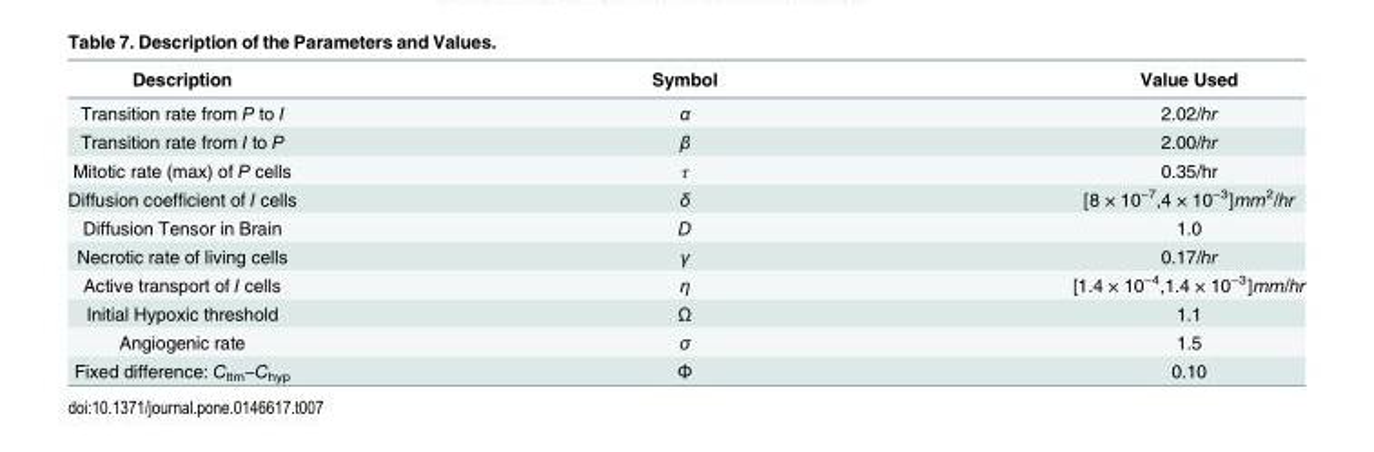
<table><thead><tr><td>Description</td><td>Symbol</td><td>Value Used</td></tr></thead><tbody><tr><td>Transition rate from P to I</td><td>α</td><td>2.02/hr</td></tr><tr><td>Transition rate from I to P</td><td>β</td><td>2.00/hr</td></tr><tr><td>Mitotic rate (max) of P cells</td><td>τ</td><td>0.35/hr</td></tr><tr><td>Diffusion coefficient of I cells</td><td>δ</td><td>[8 × 10<sup>−7</sup>,4 × 10<sup>−3</sup>]mm<sup>2</sup>/hr</td></tr><tr><td>Diffusion Tensor in Brain</td><td>D</td><td>1.0</td></tr><tr><td>Necrotic rate of living cells</td><td>γ</td><td>0.17/hr</td></tr><tr><td>Active transport of I cells</td><td>η</td><td>[1.4 × 10<sup>−4</sup>,1.4 × 10<sup>−3</sup>]mm/hr</td></tr><tr><td>Initial Hypoxic threshold</td><td>Ω</td><td>1.1</td></tr><tr><td>Angiogenic rate</td><td>σ</td><td>1.5</td></tr><tr><td>Fixed difference: C<sub>ltm</sub>−C<sub>hyp</sub></td><td>Φ</td><td>0.10</td></tr></tbody></table>